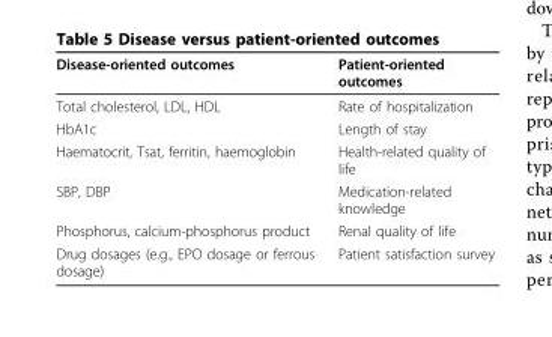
<table><thead><tr><td>Disease-oriented outcomes</td><td>Patient-oriented outcomes</td></tr></thead><tbody><tr><td>Total cholesterol, LDL, HDL</td><td>Rate of hospitalization</td></tr><tr><td>HbA1c</td><td>Length of stay</td></tr><tr><td>Haematocrit, Tsat, ferritin, haemoglobin</td><td>Health-related quality of life</td></tr><tr><td>SBP, DBP</td><td>Medication-related knowledge</td></tr><tr><td>Phosphorus, calcium-phosphorus product</td><td>Renal quality of life</td></tr><tr><td>Drug dosages (e.g., EPO dosage or ferrous dosage)</td><td>Patient satisfaction survey</td></tr></tbody></table>